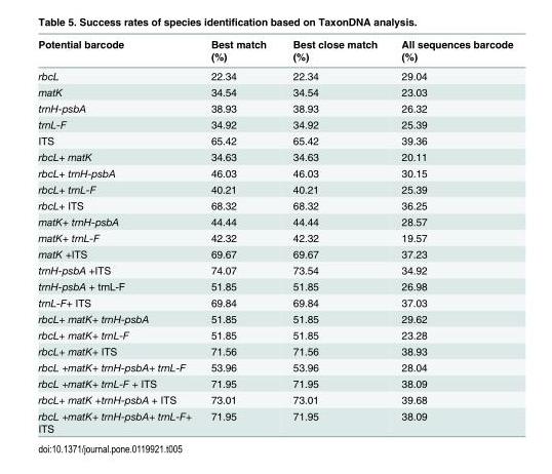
<table><thead><tr><td>Potential barcode</td><td>Best match (%)</td><td>Best close match (%)</td><td>All sequences barcode (%)</td></tr></thead><tbody><tr><td>rbcL</td><td>22.34</td><td>22.34</td><td>29.04</td></tr><tr><td>matK</td><td>34.54</td><td>34.54</td><td>23.03</td></tr><tr><td>trnH-psbA</td><td>38.93</td><td>38.93</td><td>26.32</td></tr><tr><td>trnL-F</td><td>34.92</td><td>34.92</td><td>25.39</td></tr><tr><td>ITS</td><td>65.42</td><td>65.42</td><td>39.36</td></tr><tr><td>rbcL+ matK</td><td>34.63</td><td>34.63</td><td>20.11</td></tr><tr><td>rbcL+ trnH-psbA</td><td>46.03</td><td>46.03</td><td>30.15</td></tr><tr><td>rbcL+ trnL-F</td><td>40.21</td><td>40.21</td><td>25.39</td></tr><tr><td>rbcL+ ITS</td><td>68.32</td><td>68.32</td><td>36.25</td></tr><tr><td>matK+ trnH-psbA</td><td>44.44</td><td>44.44</td><td>28.57</td></tr><tr><td>matK+ trnL-F</td><td>42.32</td><td>42.32</td><td>19.57</td></tr><tr><td>matK +ITS</td><td>69.67</td><td>69.67</td><td>37.23</td></tr><tr><td>trnH-psbA +ITS</td><td>74.07</td><td>73.54</td><td>34.92</td></tr><tr><td>trnH-psbA + trnL-F</td><td>51.85</td><td>51.85</td><td>26.98</td></tr><tr><td>trnL-F+ ITS</td><td>69.84</td><td>69.84</td><td>37.03</td></tr><tr><td>rbcL+ matK+ trnH-psbA</td><td>51.85</td><td>51.85</td><td>29.62</td></tr><tr><td>rbcL+ matK+ trnL-F</td><td>51.85</td><td>51.85</td><td>23.28</td></tr><tr><td>rbcL+ matK+ ITS</td><td>71.56</td><td>71.56</td><td>38.93</td></tr><tr><td>rbcL +matK+ trnH-psbA+ trnL-F</td><td>53.96</td><td>53.96</td><td>28.04</td></tr><tr><td>rbcL +matK+ trnL-F + ITS</td><td>71.95</td><td>71.95</td><td>38.09</td></tr><tr><td>rbcL+ matK +trnH-psbA + ITS</td><td>73.01</td><td>73.01</td><td>39.68</td></tr><tr><td>rbcL +matK+ trnH-psbA+ trnL-F+ ITS</td><td>71.95</td><td>71.95</td><td>38.09</td></tr></tbody></table>